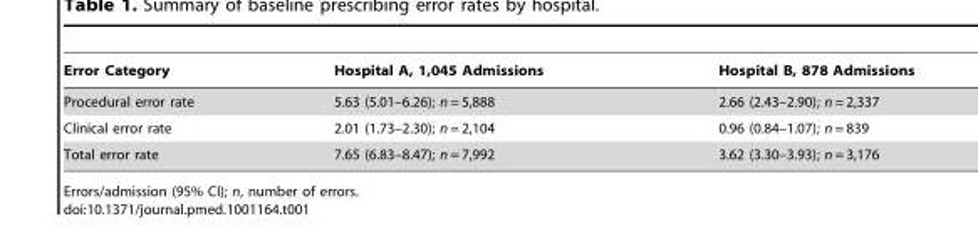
<table><thead><tr><td>Error Category</td><td>Hospital A, 1,045 Admissions</td><td>Hospital B, 878 Admissions</td></tr></thead><tbody><tr><td>Procedural error rate</td><td>5.63 (5.01–6.26); n = 5,888</td><td>2.66 (2.43–2.90); n = 2,337</td></tr><tr><td>Clinical error rate</td><td>2.01 (1.73–2.30); n = 2,104</td><td>0.96 (0.84–1.07); n = 839</td></tr><tr><td>Total error rate</td><td>7.65 (6.83–8.47); n = 7,992</td><td>3.62 (3.30–3.93); n = 3,176</td></tr></tbody></table>